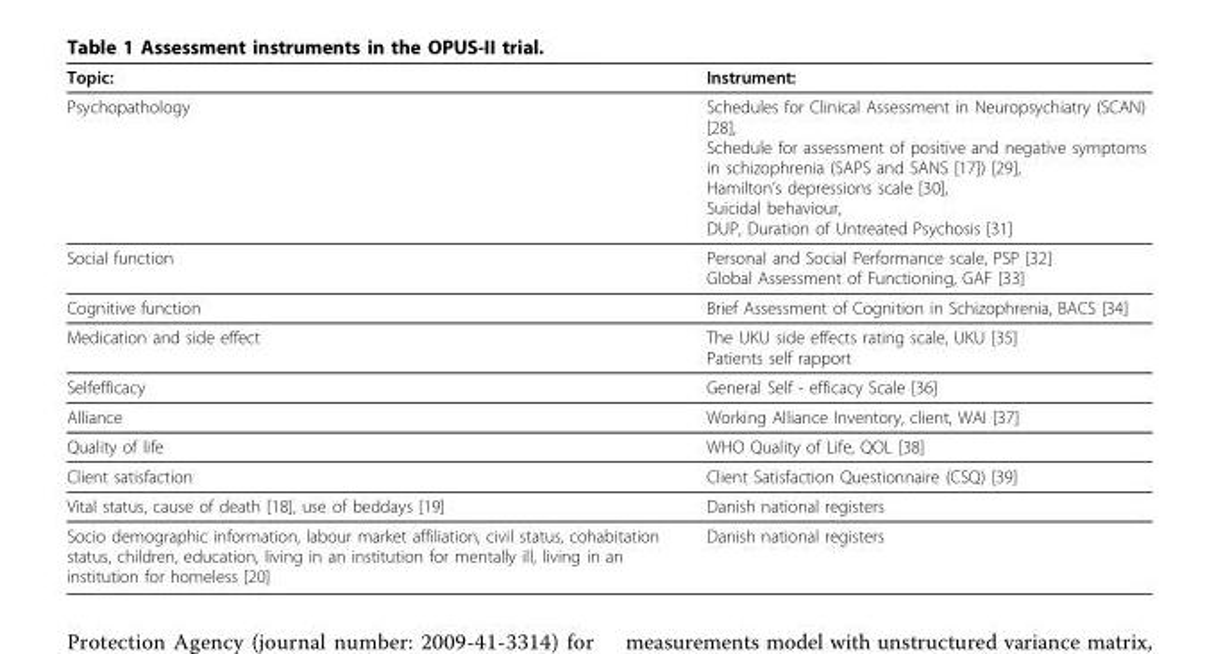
<table><thead><tr><td>Topic:</td><td>Instrument:</td></tr></thead><tbody><tr><td>Psychopathology</td><td>Schedules for Clinical Assessment in Neuropsychiatry (SCAN) [28], Schedule for assessment of positive and negative symptoms in schizophrenia (SAPS and SANS [17]) [29], Hamilton’s depressions scale [30], Suicidal behaviour, DUP, Duration of Untreated Psychosis [31]</td></tr><tr><td>Social function</td><td>Personal and Social Performance scale, PSP [32] Global Assessment of Functioning, GAF [33]</td></tr><tr><td>Cognitive function</td><td>Brief Assessment of Cognition in Schizophrenia, BACS [34]</td></tr><tr><td>Medication and side effect</td><td>The UKU side effects rating scale, UKU [35] Patients self rapport</td></tr><tr><td>Selfefficacy</td><td>General Self - efficacy Scale [36]</td></tr><tr><td>Alliance</td><td>Working Alliance Inventory, client, WAI [37]</td></tr><tr><td>Quality of life</td><td>WHO Quality of Life, QOL [38]</td></tr><tr><td>Client satisfaction</td><td>Client Satisfaction Questionnaire (CSQ) [39]</td></tr><tr><td>Vital status, cause of death [18], use of beddays [19]</td><td>Danish national registers</td></tr><tr><td>Socio demographic information, labour market affiliation, civil status, cohabitation status, children, education, living in an institution for mentally ill, living in an institution for homeless [20]</td><td>Danish national registers</td></tr></tbody></table>